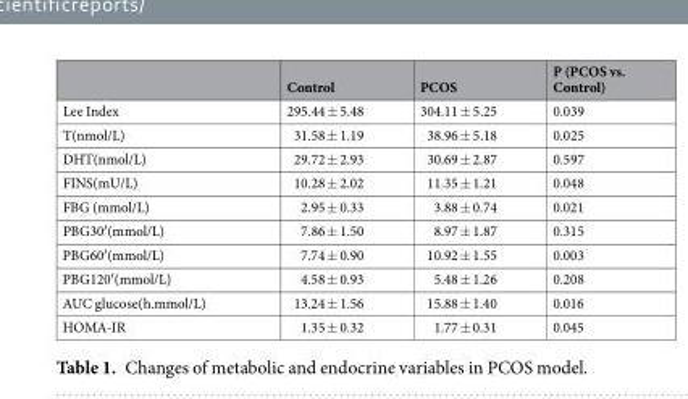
<table><thead><tr><td></td><td>Control</td><td>PCOS</td><td>P (PCOS vs. Control)</td></tr></thead><tbody><tr><td>Lee Index</td><td>295.44 ± 5.48</td><td>304.11 ± 5.25</td><td>0.039</td></tr><tr><td>T(nmol/L)</td><td>31.58 ± 1.19</td><td>38.96 ± 5.18</td><td>0.025</td></tr><tr><td>DHT(nmol/L)</td><td>29.72 ± 2.93</td><td>30.69 ± 2.87</td><td>0.597</td></tr><tr><td>FINS(mU/L)</td><td>10.28 ± 2.02</td><td>11.35 ± 1.21</td><td>0.048</td></tr><tr><td>FBG (mmol/L)</td><td>2.95 ± 0.33</td><td>3.88 ± 0.74</td><td>0.021</td></tr><tr><td>PBG30′(mmol/L)</td><td>7.86 ± 1.50</td><td>8.97 ± 1.87</td><td>0.315</td></tr><tr><td>PBG60′(mmol/L)</td><td>7.74 ± 0.90</td><td>10.92 ± 1.55</td><td>0.003</td></tr><tr><td>PBG120′(mmol/L)</td><td>4.58 ± 0.93</td><td>5.48 ± 1.26</td><td>0.208</td></tr><tr><td>AUC glucose(h.mmol/L)</td><td>13.24 ± 1.56</td><td>15.88 ± 1.40</td><td>0.016</td></tr><tr><td>HOMA-IR</td><td>1.35 ± 0.32</td><td>1.77 ± 0.31</td><td>0.045</td></tr></tbody></table>